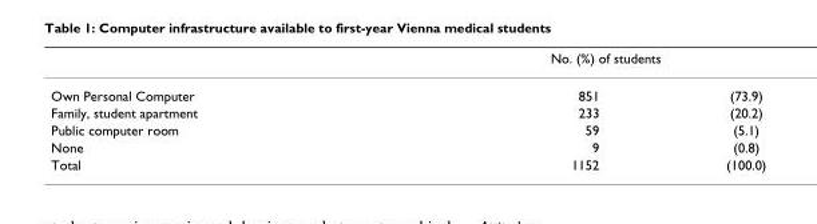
<table><thead><tr><td rowspan="2">Own Personal Computer</td><td colspan="2">No. (%) of students</td></tr><tr><td>851</td><td>(73.9)</td></tr></thead><tbody><tr><td>Family, student apartment</td><td>233</td><td>(20.2)</td></tr><tr><td>Public computer room</td><td>59</td><td>(5.1)</td></tr><tr><td>None</td><td>9</td><td>(0.8)</td></tr><tr><td>Total</td><td>1152</td><td>(100.0)</td></tr></tbody></table>